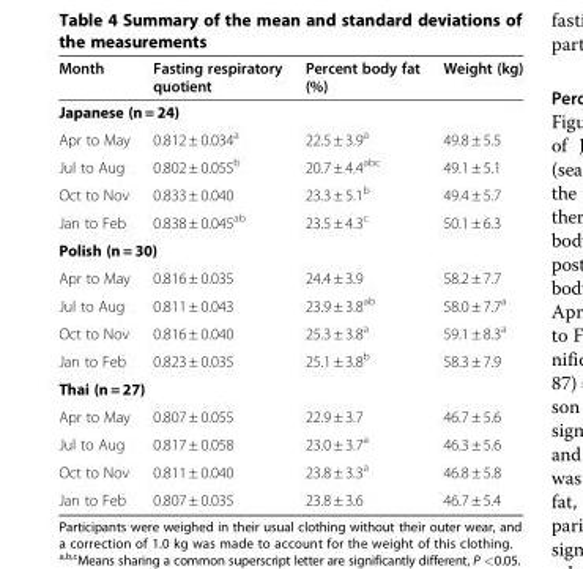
<table><thead><tr><td>Month</td><td>Fasting respiratory quotient</td><td>Percent body fat (%)</td><td>Weight (kg)</td></tr></thead><tbody><tr><td colspan="4">Japanese (n = 24)</td></tr><tr><td>Apr to May</td><td>0.812 ± 0.034<sup>a</sup></td><td>22.5 ± 3.9<sup>a</sup></td><td>49.8 ± 5.5</td></tr><tr><td>Jul to Aug</td><td>0.802 ± 0.055<sup>b</sup></td><td>20.7 ± 4.4<sup>abc</sup></td><td>49.1 ± 5.1</td></tr><tr><td>Oct to Nov</td><td>0.833 ± 0.040</td><td>23.3 ± 5.1<sup>b</sup></td><td>49.4 ± 5.7</td></tr><tr><td>Jan to Feb</td><td>0.838 ± 0.045<sup>ab</sup></td><td>23.5 ± 4.3<sup>c</sup></td><td>50.1 ± 6.3</td></tr><tr><td colspan="4">Polish (n = 30)</td></tr><tr><td>Apr to May</td><td>0.816 ± 0.035</td><td>24.4 ± 3.9</td><td>58.2 ± 7.7</td></tr><tr><td>Jul to Aug</td><td>0.811 ± 0.043</td><td>23.9 ± 3.8<sup>ab</sup></td><td>58.0 ± 7.7<sup>a</sup></td></tr><tr><td>Oct to Nov</td><td>0.816 ± 0.040</td><td>25.3 ± 3.8<sup>a</sup></td><td>59.1 ± 8.3<sup>a</sup></td></tr><tr><td>Jan to Feb</td><td>0.823 ± 0.035</td><td>25.1 ± 3.8<sup>b</sup></td><td>58.3 ± 7.9</td></tr><tr><td colspan="4">Thai (n = 27)</td></tr><tr><td>Apr to May</td><td>0.807 ± 0.055</td><td>22.9 ± 3.7</td><td>46.7 ± 5.6</td></tr><tr><td>Jul to Aug</td><td>0.817 ± 0.058</td><td>23.0 ± 3.7<sup>a</sup></td><td>46.3 ± 5.6</td></tr><tr><td>Oct to Nov</td><td>0.811 ± 0.040</td><td>23.8 ± 3.3<sup>a</sup></td><td>46.8 ± 5.8</td></tr><tr><td>Jan to Feb</td><td>0.807 ± 0.035</td><td>23.8 ± 3.6</td><td>46.7 ± 5.4</td></tr></tbody></table>